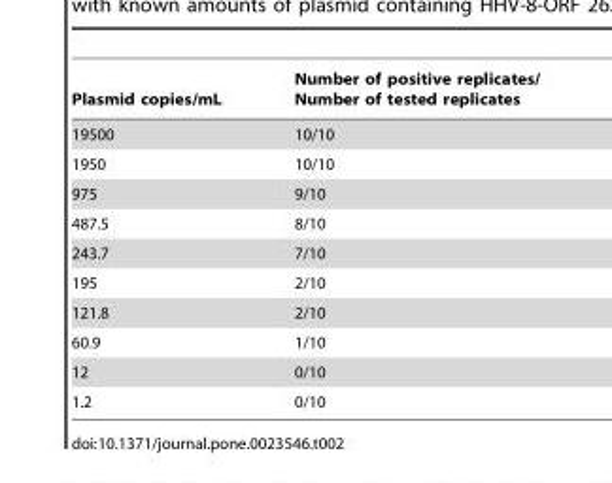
<table><thead><tr><td>Plasmid copies/mL</td><td>Number of positive replicates/ Number of tested replicates</td></tr></thead><tbody><tr><td>19500</td><td>10/10</td></tr><tr><td>1950</td><td>10/10</td></tr><tr><td>975</td><td>9/10</td></tr><tr><td>487.5</td><td>8/10</td></tr><tr><td>243.7</td><td>7/10</td></tr><tr><td>195</td><td>2/10</td></tr><tr><td>121.8</td><td>2/10</td></tr><tr><td>60.9</td><td>1/10</td></tr><tr><td>12</td><td>0/10</td></tr><tr><td>1.2</td><td>0/10</td></tr></tbody></table>